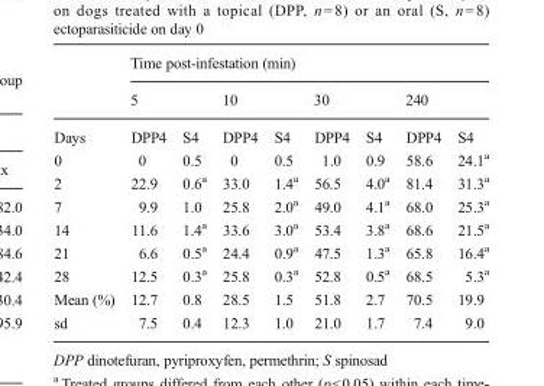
<table><thead><tr><td rowspan="3">Days</td><td colspan="8">Time post-infestation (min)</td></tr><tr><td colspan="2">5</td><td colspan="2">10</td><td colspan="2">30</td><td colspan="2">240</td></tr><tr><td>DPP4</td><td>S4</td><td>DPP4</td><td>S4</td><td>DPP4</td><td>S4</td><td>DPP4</td><td>S4</td></tr></thead><tbody><tr><td>0</td><td>0</td><td>0.5</td><td>0</td><td>0.5</td><td>1.0</td><td>0.9</td><td>58.6</td><td>24.1<sup>a</sup></td></tr><tr><td>2</td><td>22.9</td><td>0.6<sup>a</sup></td><td>33.0</td><td>1.4<sup>a</sup></td><td>56.5</td><td>4.0<sup>a</sup></td><td>81.4</td><td>31.3<sup>a</sup></td></tr><tr><td>7</td><td>9.9</td><td>1.0</td><td>25.8</td><td>2.0<sup>a</sup></td><td>49.0</td><td>4.1<sup>a</sup></td><td>68.0</td><td>25.3<sup>a</sup></td></tr><tr><td>14</td><td>11.6</td><td>1.4<sup>a</sup></td><td>33.6</td><td>3.0<sup>a</sup></td><td>53.4</td><td>3.8<sup>a</sup></td><td>68.6</td><td>21.5<sup>a</sup></td></tr><tr><td>21</td><td>6.6</td><td>0.5<sup>a</sup></td><td>24.4</td><td>0.9<sup>a</sup></td><td>47.5</td><td>1.3<sup>a</sup></td><td>65.8</td><td>16.4<sup>a</sup></td></tr><tr><td>28</td><td>12.5</td><td>0.3<sup>a</sup></td><td>25.8</td><td>0.3<sup>a</sup></td><td>52.8</td><td>0.5<sup>a</sup></td><td>68.5</td><td>5.3<sup>a</sup></td></tr><tr><td>Mean (%)</td><td>12.7</td><td>0.8</td><td>28.5</td><td>1.5</td><td>51.8</td><td>2.7</td><td>70.5</td><td>19.9</td></tr><tr><td>sd</td><td>7.5</td><td>0.4</td><td>12.3</td><td>1.0</td><td>21.0</td><td>1.7</td><td>7.4</td><td>9.0</td></tr></tbody></table>